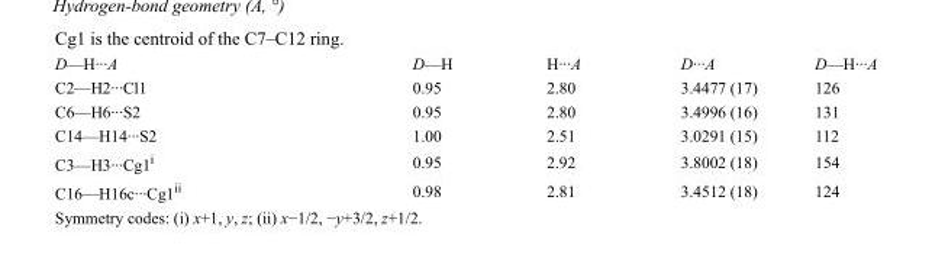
<table><tbody><tr><td>D—H···A</td><td>D—H</td><td>H···A</td><td>D···A</td><td>D—H···A</td></tr><tr><td>C2—H2···Cl1</td><td>0.95</td><td>2.80</td><td>3.4477 (17)</td><td>126</td></tr><tr><td>C6—H6···S2</td><td>0.95</td><td>2.80</td><td>3.4996 (16)</td><td>131</td></tr><tr><td>C14—H14···S2</td><td>1.00</td><td>2.51</td><td>3.0291 (15)</td><td>112</td></tr><tr><td>C3—H3···Cg1<sup>i</sup></td><td>0.95</td><td>2.92</td><td>3.8002 (18)</td><td>154</td></tr><tr><td>C16—H16c···Cg1<sup>ii</sup></td><td>0.98</td><td>2.81</td><td>3.4512 (18)</td><td>124</td></tr></tbody></table>